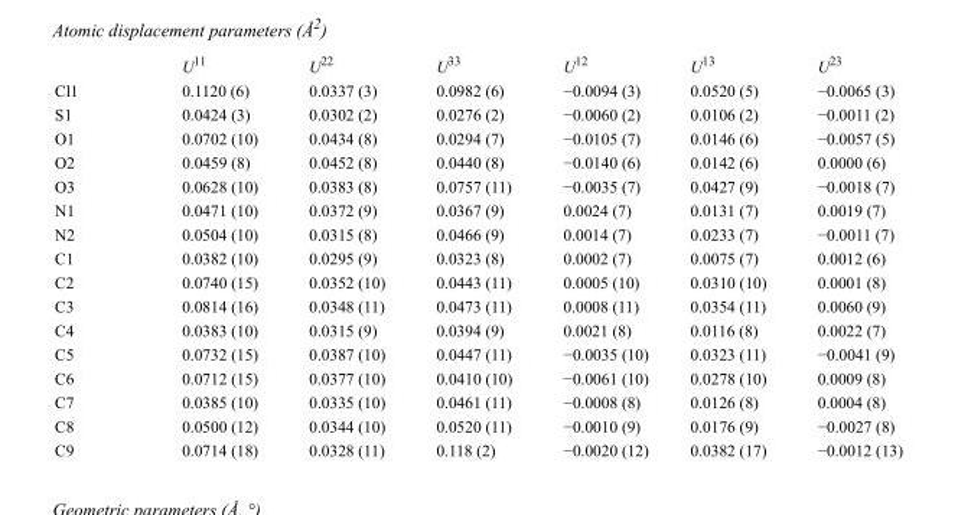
<table><thead><tr><td></td><td>U<sup>11</sup></td><td>U<sup>22</sup></td><td>U<sup>33</sup></td><td>U<sup>12</sup></td><td>U<sup>13</sup></td><td>U<sup>23</sup></td></tr></thead><tbody><tr><td>Cl1</td><td>0.1120 (6)</td><td>0.0337 (3)</td><td>0.0982 (6)</td><td>−0.0094 (3)</td><td>0.0520 (5)</td><td>−0.0065 (3)</td></tr><tr><td>S1</td><td>0.0424 (3)</td><td>0.0302 (2)</td><td>0.0276 (2)</td><td>−0.0060 (2)</td><td>0.0106 (2)</td><td>−0.0011 (2)</td></tr><tr><td>O1</td><td>0.0702 (10)</td><td>0.0434 (8)</td><td>0.0294 (7)</td><td>−0.0105 (7)</td><td>0.0146 (6)</td><td>−0.0057 (5)</td></tr><tr><td>O2</td><td>0.0459 (8)</td><td>0.0452 (8)</td><td>0.0440 (8)</td><td>−0.0140 (6)</td><td>0.0142 (6)</td><td>0.0000 (6)</td></tr><tr><td>O3</td><td>0.0628 (10)</td><td>0.0383 (8)</td><td>0.0757 (11)</td><td>−0.0035 (7)</td><td>0.0427 (9)</td><td>−0.0018 (7)</td></tr><tr><td>N1</td><td>0.0471 (10)</td><td>0.0372 (9)</td><td>0.0367 (9)</td><td>0.0024 (7)</td><td>0.0131 (7)</td><td>0.0019 (7)</td></tr><tr><td>N2</td><td>0.0504 (10)</td><td>0.0315 (8)</td><td>0.0466 (9)</td><td>0.0014 (7)</td><td>0.0233 (7)</td><td>−0.0011 (7)</td></tr><tr><td>C1</td><td>0.0382 (10)</td><td>0.0295 (9)</td><td>0.0323 (8)</td><td>0.0002 (7)</td><td>0.0075 (7)</td><td>0.0012 (6)</td></tr><tr><td>C2</td><td>0.0740 (15)</td><td>0.0352 (10)</td><td>0.0443 (11)</td><td>0.0005 (10)</td><td>0.0310 (10)</td><td>0.0001 (8)</td></tr><tr><td>C3</td><td>0.0814 (16)</td><td>0.0348 (11)</td><td>0.0473 (11)</td><td>0.0008 (11)</td><td>0.0354 (11)</td><td>0.0060 (9)</td></tr><tr><td>C4</td><td>0.0383 (10)</td><td>0.0315 (9)</td><td>0.0394 (9)</td><td>0.0021 (8)</td><td>0.0116 (8)</td><td>0.0022 (7)</td></tr><tr><td>C5</td><td>0.0732 (15)</td><td>0.0387 (10)</td><td>0.0447 (11)</td><td>−0.0035 (10)</td><td>0.0323 (11)</td><td>−0.0041 (9)</td></tr><tr><td>C6</td><td>0.0712 (15)</td><td>0.0377 (10)</td><td>0.0410 (10)</td><td>−0.0061 (10)</td><td>0.0278 (10)</td><td>0.0009 (8)</td></tr><tr><td>C7</td><td>0.0385 (10)</td><td>0.0335 (10)</td><td>0.0461 (11)</td><td>−0.0008 (8)</td><td>0.0126 (8)</td><td>0.0004 (8)</td></tr><tr><td>C8</td><td>0.0500 (12)</td><td>0.0344 (10)</td><td>0.0520 (11)</td><td>−0.0010 (9)</td><td>0.0176 (9)</td><td>−0.0027 (8)</td></tr><tr><td>C9</td><td>0.0714 (18)</td><td>0.0328 (11)</td><td>0.118 (2)</td><td>−0.0020 (12)</td><td>0.0382 (17)</td><td>−0.0012 (13)</td></tr></tbody></table>